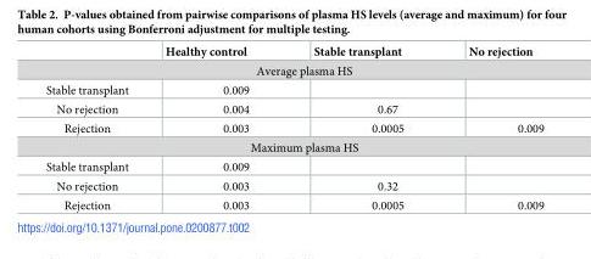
<table><thead><tr><td></td><td>Healthy control</td><td>Stable transplant</td><td>No rejection</td></tr></thead><tbody><tr><td colspan="4">Average plasma HS</td></tr><tr><td>Stable transplant</td><td>0.009</td><td></td><td></td></tr><tr><td>No rejection</td><td>0.004</td><td>0.67</td><td></td></tr><tr><td>Rejection</td><td>0.003</td><td>0.0005</td><td>0.009</td></tr><tr><td colspan="4">Maximum plasma HS</td></tr><tr><td>Stable transplant</td><td>0.009</td><td></td><td></td></tr><tr><td>No rejection</td><td>0.003</td><td>0.32</td><td></td></tr><tr><td>Rejection</td><td>0.003</td><td>0.0005</td><td>0.009</td></tr></tbody></table>